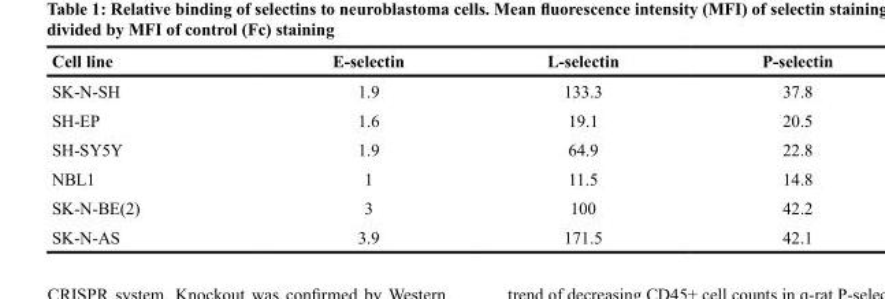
<table><thead><tr><td>Cell line</td><td>E-selectin</td><td>L-selectin</td><td>P-selectin</td></tr></thead><tbody><tr><td>SK-N-SH</td><td>1.9</td><td>133.3</td><td>37.8</td></tr><tr><td>SH-EP</td><td>1.6</td><td>19.1</td><td>20.5</td></tr><tr><td>SH-SY5Y</td><td>1.9</td><td>64.9</td><td>22.8</td></tr><tr><td>NBL1</td><td>1</td><td>11.5</td><td>14.8</td></tr><tr><td>SK-N-BE(2)</td><td>3</td><td>100</td><td>42.2</td></tr><tr><td>SK-N-AS</td><td>3.9</td><td>171.5</td><td>42.1</td></tr></tbody></table>